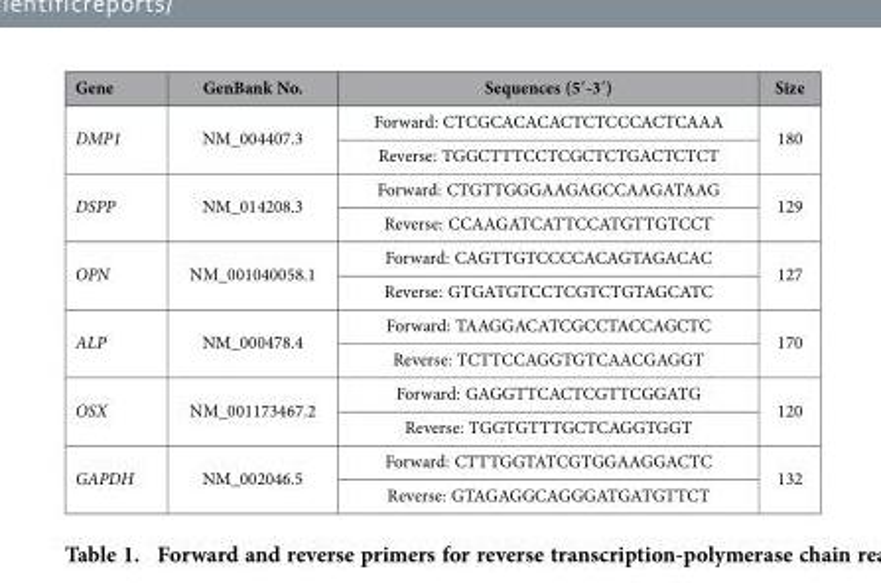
<table><thead><tr><td>Gene</td><td>GenBank No.</td><td>Sequences (5′-3′)</td><td>Size</td></tr></thead><tbody><tr><td rowspan="2">DMP1</td><td rowspan="2">NM_004407.3</td><td>Forward: CTCGCACACACTCTCCCACTCAAA</td><td rowspan="2">180</td></tr><tr><td>Reverse: TGGCTTTCCTCGCTCTGACTCTCT</td></tr><tr><td rowspan="2">DSPP</td><td rowspan="2">NM_014208.3</td><td>Forward: CTGTTGGGAAGAGCCAAGATAAG</td><td rowspan="2">129</td></tr><tr><td>Reverse: CCAAGATCATTCCATGTTGTCCT</td></tr><tr><td rowspan="2">OPN</td><td rowspan="2">NM_001040058.1</td><td>Forward: CAGTTGTCCCCACAGTAGACAC</td><td rowspan="2">127</td></tr><tr><td>Reverse: GTGATGTCCTCGTCTGTAGCATC</td></tr><tr><td rowspan="2">ALP</td><td rowspan="2">NM_000478.4</td><td>Forward: TAAGGACATCGCCTACCAGCTC</td><td rowspan="2">170</td></tr><tr><td>Reverse: TCTTCCAGGTGTCAACGAGGT</td></tr><tr><td rowspan="2">OSX</td><td rowspan="2">NM_001173467.2</td><td>Forward: GAGGTTCACTCGTTCGGATG</td><td rowspan="2">120</td></tr><tr><td>Reverse: TGGTGTTTGCTCAGGTGGT</td></tr><tr><td rowspan="2">GAPDH</td><td rowspan="2">NM_002046.5</td><td>Forward: CTTTGGTATCGTGGAAGGACTC</td><td rowspan="2">132</td></tr><tr><td>Reverse: GTAGAGGCAGGGATGATGTTCT</td></tr></tbody></table>